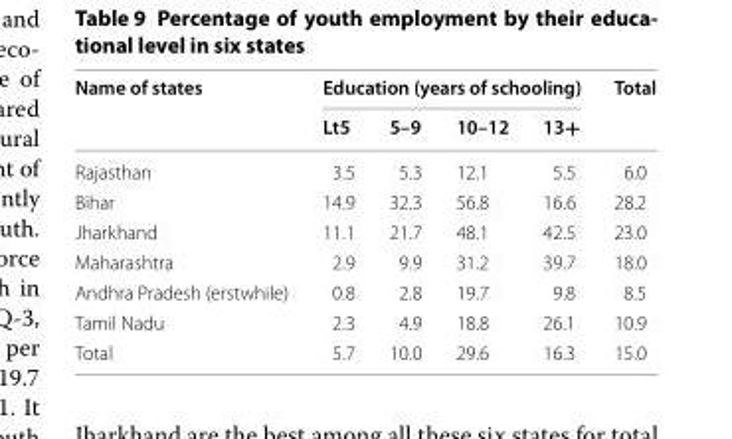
<table><thead><tr><td rowspan="2">Name of states</td><td colspan="4">Education (years of schooling)</td><td rowspan="2">Total</td></tr><tr><td>Lt5</td><td>5–9</td><td>10–12</td><td>13+</td></tr></thead><tbody><tr><td>Rajasthan</td><td>3.5</td><td>5.3</td><td>12.1</td><td>5.5</td><td>6.0</td></tr><tr><td>Bihar</td><td>14.9</td><td>32.3</td><td>56.8</td><td>16.6</td><td>28.2</td></tr><tr><td>Jharkhand</td><td>11.1</td><td>21.7</td><td>48.1</td><td>42.5</td><td>23.0</td></tr><tr><td>Maharashtra</td><td>2.9</td><td>9.9</td><td>31.2</td><td>39.7</td><td>18.0</td></tr><tr><td>Andhra Pradesh (erstwhile)</td><td>0.8</td><td>2.8</td><td>19.7</td><td>9.8</td><td>8.5</td></tr><tr><td>Tamil Nadu</td><td>2.3</td><td>4.9</td><td>18.8</td><td>26.1</td><td>10.9</td></tr><tr><td>Total</td><td>5.7</td><td>10.0</td><td>29.6</td><td>16.3</td><td>15.0</td></tr></tbody></table>